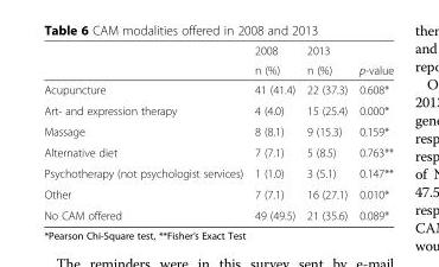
<table><thead><tr><td rowspan="2"></td><td rowspan="2">2008 n (%)</td><td rowspan="2">2013 n (%)</td><td rowspan="2">p-value</td></tr><tr></tr></thead><tbody><tr><td>Acupuncture</td><td>41 (41.4)</td><td>22 (37.3)</td><td>0.608*</td></tr><tr><td>Art- and expression therapy</td><td>4 (4.0)</td><td>15 (25.4)</td><td>0.000*</td></tr><tr><td>Massage</td><td>8 (8.1)</td><td>9 (15.3)</td><td>0.159*</td></tr><tr><td>Alternative diet</td><td>7 (7.1)</td><td>5 (8.5)</td><td>0.763**</td></tr><tr><td>Psychotherapy (not psychologist services)</td><td>1 (1.0)</td><td>3 (5.1)</td><td>0.147**</td></tr><tr><td>Other</td><td>7 (7.1)</td><td>16 (27.1)</td><td>0.010*</td></tr><tr><td>No CAM offered</td><td>49 (49.5)</td><td>21 (35.6)</td><td>0.089*</td></tr></tbody></table>